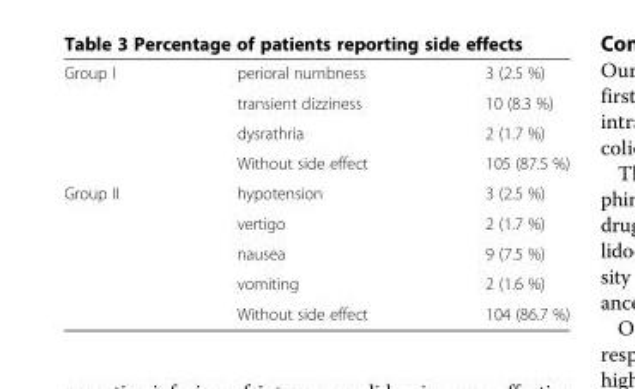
<table><tbody><tr><td rowspan="4">Group I</td><td>perioral numbness</td><td>3 (2.5 %)</td></tr><tr><td>transient dizziness</td><td>10 (8.3 %)</td></tr><tr><td>dysrathria</td><td>2 (1.7 %)</td></tr><tr><td>Without side effect</td><td>105 (87.5 %)</td></tr><tr><td rowspan="5">Group II</td><td>hypotension</td><td>3 (2.5 %)</td></tr><tr><td>vertigo</td><td>2 (1.7 %)</td></tr><tr><td>nausea</td><td>9 (7.5 %)</td></tr><tr><td>vomiting</td><td>2 (1.6 %)</td></tr><tr><td>Without side effect</td><td>104 (86.7 %)</td></tr></tbody></table>